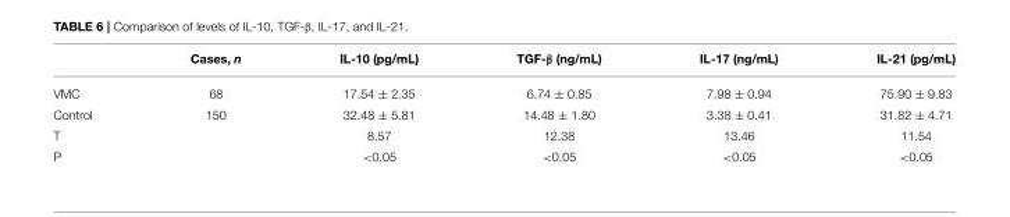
<table><thead><tr><td></td><td>Cases, n</td><td>IL-10 (pg/mL)</td><td>TGF-β (ng/mL)</td><td>IL-17 (ng/mL)</td><td>IL-21 (pg/mL)</td></tr></thead><tbody><tr><td>VMC</td><td>68</td><td>17.54 ± 2.35</td><td>6.74 ± 0.85</td><td>7.98 ± 0.94</td><td>75.90 ± 9.83</td></tr><tr><td>Control</td><td>150</td><td>32.48 ± 5.81</td><td>14.48 ± 1.80</td><td>3.38 ± 0.41</td><td>31.82 ± 4.71</td></tr><tr><td>T</td><td></td><td>8.57</td><td>12.38</td><td>13.46</td><td>11.54</td></tr><tr><td>P</td><td></td><td>&lt;0.05</td><td>&lt;0.05</td><td>&lt;0.05</td><td>&lt;0.05</td></tr></tbody></table>